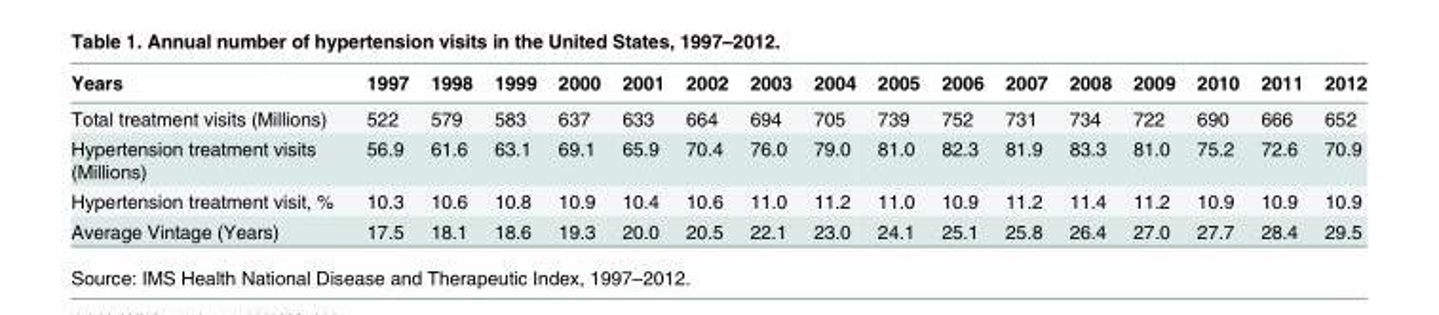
<table><thead><tr><td>Years</td><td>1997</td><td>1998</td><td>1999</td><td>2000</td><td>2001</td><td>2002</td><td>2003</td><td>2004</td><td>2005</td><td>2006</td><td>2007</td><td>2008</td><td>2009</td><td>2010</td><td>2011</td><td>2012</td></tr></thead><tbody><tr><td>Total treatment visits (Millions)</td><td>522</td><td>579</td><td>583</td><td>637</td><td>633</td><td>664</td><td>694</td><td>705</td><td>739</td><td>752</td><td>731</td><td>734</td><td>722</td><td>690</td><td>666</td><td>652</td></tr><tr><td>Hypertension treatment visits (Millions)</td><td>56.9</td><td>61.6</td><td>63.1</td><td>69.1</td><td>65.9</td><td>70.4</td><td>76.0</td><td>79.0</td><td>81.0</td><td>82.3</td><td>81.9</td><td>83.3</td><td>81.0</td><td>75.2</td><td>72.6</td><td>70.9</td></tr><tr><td>Hypertension treatment visit, %</td><td>10.3</td><td>10.6</td><td>10.8</td><td>10.9</td><td>10.4</td><td>10.6</td><td>11.0</td><td>11.2</td><td>11.0</td><td>10.9</td><td>11.2</td><td>11.4</td><td>11.2</td><td>10.9</td><td>10.9</td><td>10.9</td></tr><tr><td>Average Vintage (Years)</td><td>17.5</td><td>18.1</td><td>18.6</td><td>19.3</td><td>20.0</td><td>20.5</td><td>22.1</td><td>23.0</td><td>24.1</td><td>25.1</td><td>25.8</td><td>26.4</td><td>27.0</td><td>27.7</td><td>28.4</td><td>29.5</td></tr></tbody></table>